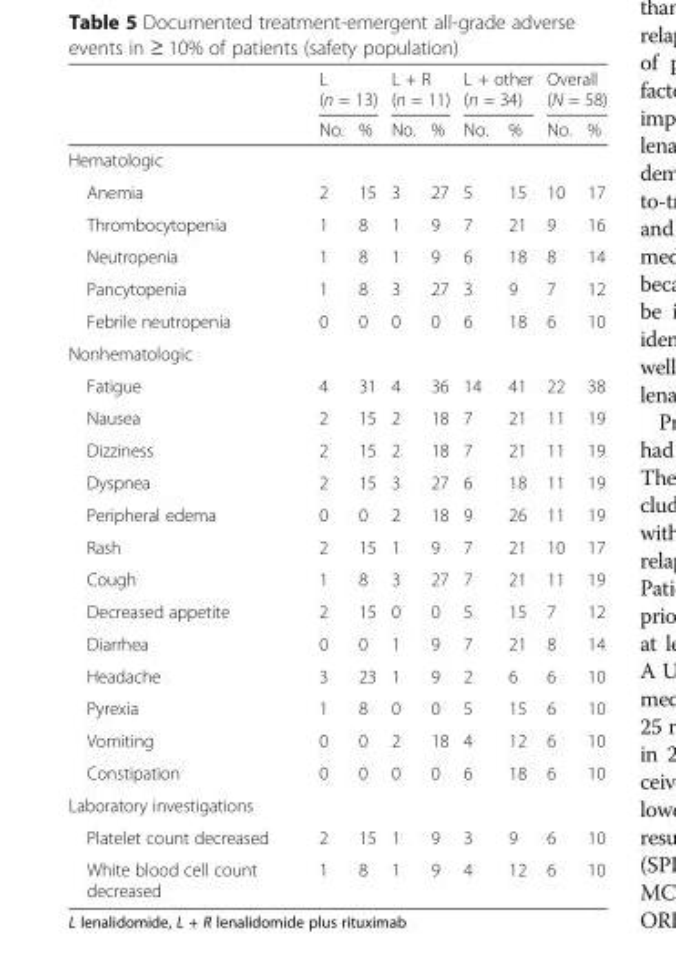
<table><thead><tr><td rowspan="2"></td><td colspan="2">L (n = 13)</td><td colspan="2">L + R (n = 11)</td><td colspan="2">L + other (n = 34)</td><td colspan="2">Overall (N = 58)</td></tr><tr><td>No.</td><td>%</td><td>No.</td><td>%</td><td>No.</td><td>%</td><td>No.</td><td>%</td></tr></thead><tbody><tr><td colspan="9">Hematologic</td></tr><tr><td>Anemia</td><td>2</td><td>15</td><td>3</td><td>27</td><td>5</td><td>15</td><td>10</td><td>17</td></tr><tr><td>Thrombocytopenia</td><td>1</td><td>8</td><td>1</td><td>9</td><td>7</td><td>21</td><td>9</td><td>16</td></tr><tr><td>Neutropenia</td><td>1</td><td>8</td><td>1</td><td>9</td><td>6</td><td>18</td><td>8</td><td>14</td></tr><tr><td>Pancytopenia</td><td>1</td><td>8</td><td>3</td><td>27</td><td>3</td><td>9</td><td>7</td><td>12</td></tr><tr><td>Febrile neutropenia</td><td>0</td><td>0</td><td>0</td><td>0</td><td>6</td><td>18</td><td>6</td><td>10</td></tr><tr><td colspan="9">Nonhematologic</td></tr><tr><td>Fatigue</td><td>4</td><td>31</td><td>4</td><td>36</td><td>14</td><td>41</td><td>22</td><td>38</td></tr><tr><td>Nausea</td><td>2</td><td>15</td><td>2</td><td>18</td><td>7</td><td>21</td><td>11</td><td>19</td></tr><tr><td>Dizziness</td><td>2</td><td>15</td><td>2</td><td>18</td><td>7</td><td>21</td><td>11</td><td>19</td></tr><tr><td>Dyspnea</td><td>2</td><td>15</td><td>3</td><td>27</td><td>6</td><td>18</td><td>11</td><td>19</td></tr><tr><td>Peripheral edema</td><td>0</td><td>0</td><td>2</td><td>18</td><td>9</td><td>26</td><td>11</td><td>19</td></tr><tr><td>Rash</td><td>2</td><td>15</td><td>1</td><td>9</td><td>7</td><td>21</td><td>10</td><td>17</td></tr><tr><td>Cough</td><td>1</td><td>8</td><td>3</td><td>27</td><td>7</td><td>21</td><td>11</td><td>19</td></tr><tr><td>Decreased appetite</td><td>2</td><td>15</td><td>0</td><td>0</td><td>5</td><td>15</td><td>7</td><td>12</td></tr><tr><td>Diarrhea</td><td>0</td><td>0</td><td>1</td><td>9</td><td>7</td><td>21</td><td>8</td><td>14</td></tr><tr><td>Headache</td><td>3</td><td>23</td><td>1</td><td>9</td><td>2</td><td>6</td><td>6</td><td>10</td></tr><tr><td>Pyrexia</td><td>1</td><td>8</td><td>0</td><td>0</td><td>5</td><td>15</td><td>6</td><td>10</td></tr><tr><td>Vomiting</td><td>0</td><td>0</td><td>2</td><td>18</td><td>4</td><td>12</td><td>6</td><td>10</td></tr><tr><td>Constipation</td><td>0</td><td>0</td><td>0</td><td>0</td><td>6</td><td>18</td><td>6</td><td>10</td></tr><tr><td colspan="9">Laboratory investigations</td></tr><tr><td>Platelet count decreased</td><td>2</td><td>15</td><td>1</td><td>9</td><td>3</td><td>9</td><td>6</td><td>10</td></tr><tr><td>White blood cell count decreased</td><td>1</td><td>8</td><td>1</td><td>9</td><td>4</td><td>12</td><td>6</td><td>10</td></tr></tbody></table>